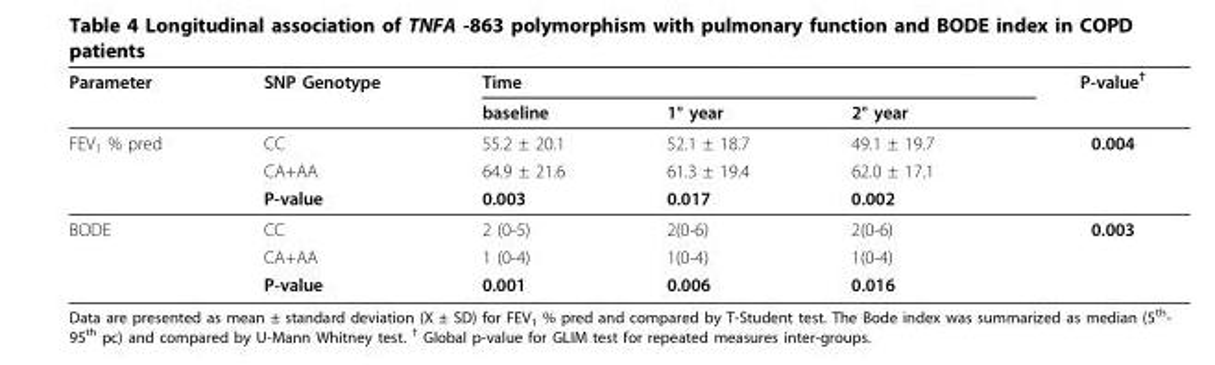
<table><thead><tr><td rowspan="2">Parameter</td><td rowspan="2">SNP Genotype</td><td colspan="3">Time</td><td rowspan="2">P-value<sup>†</sup></td></tr><tr><td>baseline</td><td>1° year</td><td>2° year</td></tr></thead><tbody><tr><td rowspan="3">FEV<sub>1</sub> % pred</td><td>CC</td><td>55.2 ± 20.1</td><td>52.1 ± 18.7</td><td>49.1 ± 19.7</td><td>0.004</td></tr><tr><td>CA+AA</td><td>64.9 ± 21.6</td><td>61.3 ± 19.4</td><td>62.0 ± 17.1</td><td></td></tr><tr><td>P-value</td><td>0.003</td><td>0.017</td><td>0.002</td><td></td></tr><tr><td rowspan="3">BODE</td><td>CC</td><td>2 (0-5)</td><td>2(0-6)</td><td>2(0-6)</td><td>0.003</td></tr><tr><td>CA+AA</td><td>1 (0-4)</td><td>1(0-4)</td><td>1(0-4)</td><td></td></tr><tr><td>P-value</td><td>0.001</td><td>0.006</td><td>0.016</td><td></td></tr></tbody></table>